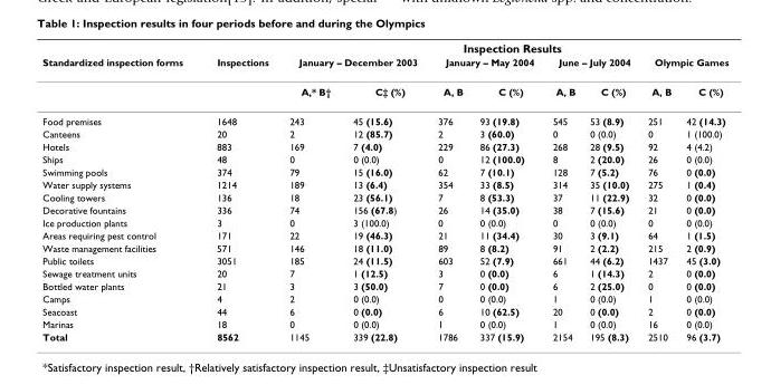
<table><thead><tr><td rowspan="3">Standardized inspection forms</td><td rowspan="3">Inspections</td><td colspan="8">Inspection Results</td></tr><tr><td colspan="2">January – December 2003</td><td colspan="2">January – May 2004</td><td colspan="2">June – July 2004</td><td colspan="2">Olympic Games</td></tr><tr><td>A,* B†</td><td>C‡ (%)</td><td>A, B</td><td>C (%)</td><td>A, B</td><td>C (%)</td><td>A, B</td><td>C (%)</td></tr></thead><tbody><tr><td>Food premises</td><td>1648</td><td>243</td><td>45 (15.6)</td><td>376</td><td>93 (19.8)</td><td>545</td><td>53 (8.9)</td><td>251</td><td>42 (14.3)</td></tr><tr><td>Canteens</td><td>20</td><td>2</td><td>12 (85.7)</td><td>2</td><td>3 (60.0)</td><td>0</td><td>0 (0.0)</td><td>0</td><td>1 (100.0)</td></tr><tr><td>Hotels</td><td>883</td><td>169</td><td>7 (4.0)</td><td>229</td><td>86 (27.3)</td><td>268</td><td>28 (9.5)</td><td>92</td><td>4 (4.2)</td></tr><tr><td>Ships</td><td>48</td><td>0</td><td>0 (0.0)</td><td>0</td><td>12 (100.0)</td><td>8</td><td>2 (20.0)</td><td>26</td><td>0 (0.0)</td></tr><tr><td>Swimming pools</td><td>374</td><td>79</td><td>15 (16.0)</td><td>62</td><td>7 (10.1)</td><td>128</td><td>7 (5.2)</td><td>76</td><td>0 (0.0)</td></tr><tr><td>Water supply systems</td><td>1214</td><td>189</td><td>13 (6.4)</td><td>354</td><td>33 (8.5)</td><td>314</td><td>35 (10.0)</td><td>275</td><td>1 (0.4)</td></tr><tr><td>Cooling towers</td><td>136</td><td>18</td><td>23 (56.1)</td><td>7</td><td>8 (53.3)</td><td>37</td><td>11 (22.9)</td><td>32</td><td>0 (0.0)</td></tr><tr><td>Decorative fountains</td><td>336</td><td>74</td><td>156 (67.8)</td><td>26</td><td>14 (35.0)</td><td>38</td><td>7 (15.6)</td><td>21</td><td>0 (0.0)</td></tr><tr><td>Ice production plants</td><td>3</td><td>0</td><td>3 (100.0)</td><td>0</td><td>0 (0.0)</td><td>0</td><td>0 (0.0)</td><td>0</td><td>0 (0.0)</td></tr><tr><td>Areas requiring pest control</td><td>171</td><td>22</td><td>19 (46.3)</td><td>21</td><td>11 (34.4)</td><td>30</td><td>3 (9.1)</td><td>64</td><td>1 (1.5)</td></tr><tr><td>Waste management facilities</td><td>571</td><td>146</td><td>18 (11.0)</td><td>89</td><td>8 (8.2)</td><td>91</td><td>2 (2.2)</td><td>215</td><td>2 (0.9)</td></tr><tr><td>Public toilets</td><td>3051</td><td>185</td><td>24 (11.5)</td><td>603</td><td>52 (7.9)</td><td>661</td><td>44 (6.2)</td><td>1437</td><td>45 (3.0)</td></tr><tr><td>Sewage treatment units</td><td>20</td><td>7</td><td>1 (12.5)</td><td>3</td><td>0 (0.0)</td><td>6</td><td>1 (14.3)</td><td>2</td><td>0 (0.0)</td></tr><tr><td>Bottled water plants</td><td>21</td><td>3</td><td>3 (50.0)</td><td>7</td><td>0 (0.0)</td><td>6</td><td>2 (25.0)</td><td>0</td><td>0 (0.0)</td></tr><tr><td>Camps</td><td>4</td><td>2</td><td>0 (0.0)</td><td>0</td><td>0 (0.0)</td><td>1</td><td>0 (0.0)</td><td>1</td><td>0 (0.0)</td></tr><tr><td>Seacoast</td><td>44</td><td>6</td><td>0 (0.0)</td><td>6</td><td>10 (62.5)</td><td>20</td><td>0 (0.0)</td><td>2</td><td>0 (0.0)</td></tr><tr><td>Marinas</td><td>18</td><td>0</td><td>0 (0.0)</td><td>1</td><td>0 (0.0)</td><td>1</td><td>0 (0.0)</td><td>16</td><td>0 (0.0)</td></tr><tr><td>Total</td><td>8562</td><td>1145</td><td>339 (22.8)</td><td>1786</td><td>337 (15.9)</td><td>2154</td><td>195 (8.3)</td><td>2510</td><td>96 (3.7)</td></tr></tbody></table>